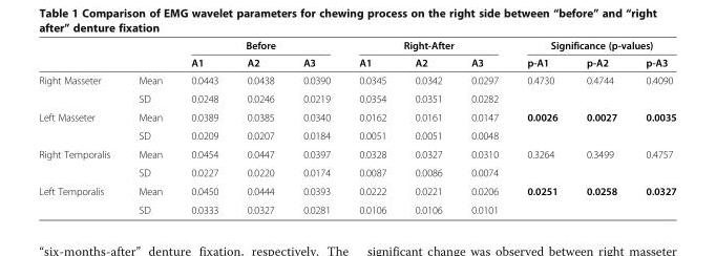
<table><thead><tr><td rowspan="2"></td><td rowspan="2"></td><td colspan="3">Before</td><td colspan="3">Right-After</td><td colspan="3">Significance (p-values)</td></tr><tr><td>A1</td><td>A2</td><td>A3</td><td>A1</td><td>A2</td><td>A3</td><td>p-A1</td><td>p-A2</td><td>p-A3</td></tr></thead><tbody><tr><td rowspan="2">Right Masseter</td><td>Mean</td><td>0.0443</td><td>0.0438</td><td>0.0390</td><td>0.0345</td><td>0.0342</td><td>0.0297</td><td rowspan="2">0.4730</td><td rowspan="2">0.4744</td><td rowspan="2">0.4090</td></tr><tr><td>SD</td><td>0.0248</td><td>0.0246</td><td>0.0219</td><td>0.0354</td><td>0.0351</td><td>0.0282</td></tr><tr><td rowspan="2">Left Masseter</td><td>Mean</td><td>0.0389</td><td>0.0385</td><td>0.0340</td><td>0.0162</td><td>0.0161</td><td>0.0147</td><td rowspan="2">0.0026</td><td rowspan="2">0.0027</td><td rowspan="2">0.0035</td></tr><tr><td>SD</td><td>0.0209</td><td>0.0207</td><td>0.0184</td><td>0.0051</td><td>0.0051</td><td>0.0048</td></tr><tr><td rowspan="2">Right Temporalis</td><td>Mean</td><td>0.0454</td><td>0.0447</td><td>0.0397</td><td>0.0328</td><td>0.0327</td><td>0.0310</td><td rowspan="2">0.3264</td><td rowspan="2">0.3499</td><td rowspan="2">0.4757</td></tr><tr><td>SD</td><td>0.0227</td><td>0.0220</td><td>0.0174</td><td>0.0087</td><td>0.0086</td><td>0.0074</td></tr><tr><td rowspan="2">Left Temporalis</td><td>Mean</td><td>0.0450</td><td>0.0444</td><td>0.0393</td><td>0.0222</td><td>0.0221</td><td>0.0206</td><td>0.0251</td><td>0.0258</td><td>0.0327</td></tr><tr><td>SD</td><td>0.0333</td><td>0.0327</td><td>0.0281</td><td>0.0106</td><td>0.0106</td><td>0.0101</td><td></td><td></td><td></td></tr></tbody></table>